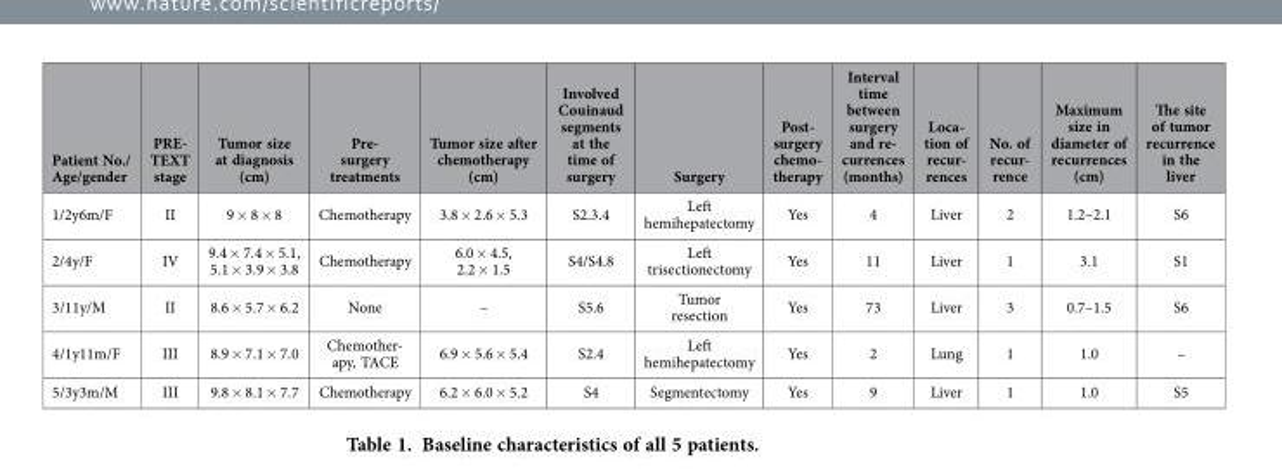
<table><thead><tr><td>Patient No./ Age/gender</td><td>PRE- TEXT stage</td><td>Tumor size at diagnosis (cm)</td><td>Pre- surgery treatments</td><td>Tumor size after chemotherapy (cm)</td><td>Involved Couinaud segments at the time of surgery</td><td>Surgery</td><td>Post- surgery chemo- therapy</td><td>Interval time between surgery and re- currences (months)</td><td>Loca- tion of recur- rences</td><td>No. of recur- rence</td><td>Maximum size in diameter of recurrences (cm)</td><td>The site of tumor recurrence in the liver</td></tr></thead><tbody><tr><td>1/2y6m/F</td><td>II</td><td>9 × 8 × 8</td><td>Chemotherapy</td><td>3.8 × 2.6 × 5.3</td><td>S2.3.4</td><td>Left hemihepatectomy</td><td>Yes</td><td>4</td><td>Liver</td><td>2</td><td>1.2–2.1</td><td>S6</td></tr><tr><td>2/4y/F</td><td>IV</td><td>9.4 × 7.4 × 5.1, 5.1 × 3.9 × 3.8</td><td>Chemotherapy</td><td>6.0 × 4.5, 2.2 × 1.5</td><td>S4/S4.8</td><td>Left trisectionectomy</td><td>Yes</td><td>11</td><td>Liver</td><td>1</td><td>3.1</td><td>S1</td></tr><tr><td>3/11y/M</td><td>II</td><td>8.6 × 5.7 × 6.2</td><td>None</td><td>–</td><td>S5.6</td><td>Tumor resection</td><td>Yes</td><td>73</td><td>Liver</td><td>3</td><td>0.7–1.5</td><td>S6</td></tr><tr><td>4/1y11m/F</td><td>III</td><td>8.9 × 7.1 × 7.0</td><td>Chemother- apy, TACE</td><td>6.9 × 5.6 × 5.4</td><td>S2.4</td><td>Left hemihepatectomy</td><td>Yes</td><td>2</td><td>Lung</td><td>1</td><td>1.0</td><td>–</td></tr><tr><td>5/3y3m/M</td><td>III</td><td>9.8 × 8.1 × 7.7</td><td>Chemotherapy</td><td>6.2 × 6.0 × 5.2</td><td>S4</td><td>Segmentectomy</td><td>Yes</td><td>9</td><td>Liver</td><td>1</td><td>1.0</td><td>S5</td></tr></tbody></table>